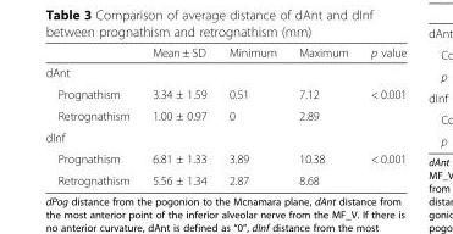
<table><thead><tr><td></td><td>Mean ± SD</td><td>Minimum</td><td>Maximum</td><td>p value</td></tr></thead><tbody><tr><td colspan="5">dAnt</td></tr><tr><td>Prognathism</td><td>3.34 ± 1.59</td><td>0.51</td><td>7.12</td><td rowspan="2">&lt; 0.001</td></tr><tr><td>Retrognathism</td><td>1.00 ± 0.97</td><td>0</td><td>2.89</td></tr><tr><td colspan="5">dInf</td></tr><tr><td>Prognathism</td><td>6.81 ± 1.33</td><td>3.89</td><td>10.38</td><td rowspan="2">&lt; 0.001</td></tr><tr><td>Retrognathism</td><td>5.56 ± 1.34</td><td>2.87</td><td>8.68</td></tr></tbody></table>